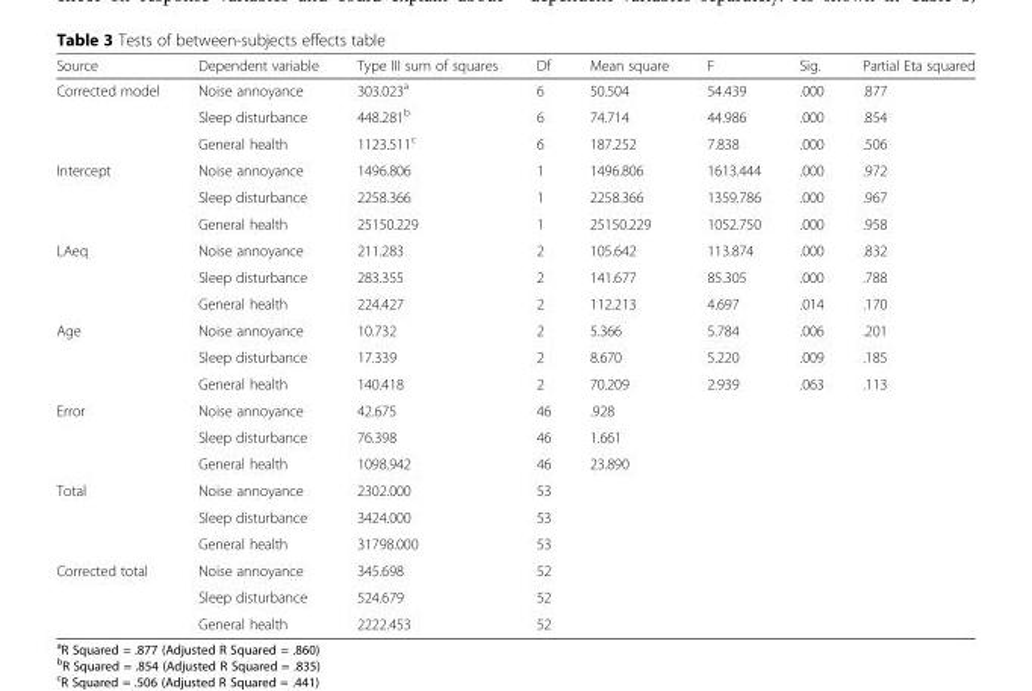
<table><thead><tr><td>Source</td><td>Dependent variable</td><td>Type III sum of squares</td><td>Df</td><td>Mean square</td><td>F</td><td>Sig.</td><td>Partial Eta squared</td></tr></thead><tbody><tr><td rowspan="3">Corrected model</td><td>Noise annoyance</td><td>303.023<sup>a</sup></td><td>6</td><td>50.504</td><td>54.439</td><td>.000</td><td>.877</td></tr><tr><td>Sleep disturbance</td><td>448.281<sup>b</sup></td><td>6</td><td>74.714</td><td>44.986</td><td>.000</td><td>.854</td></tr><tr><td>General health</td><td>1123.511<sup>c</sup></td><td>6</td><td>187.252</td><td>7.838</td><td>.000</td><td>.506</td></tr><tr><td rowspan="3">Intercept</td><td>Noise annoyance</td><td>1496.806</td><td>1</td><td>1496.806</td><td>1613.444</td><td>.000</td><td>.972</td></tr><tr><td>Sleep disturbance</td><td>2258.366</td><td>1</td><td>2258.366</td><td>1359.786</td><td>.000</td><td>.967</td></tr><tr><td>General health</td><td>25150.229</td><td>1</td><td>25150.229</td><td>1052.750</td><td>.000</td><td>.958</td></tr><tr><td rowspan="3">LAeq</td><td>Noise annoyance</td><td>211.283</td><td>2</td><td>105.642</td><td>113.874</td><td>.000</td><td>.832</td></tr><tr><td>Sleep disturbance</td><td>283.355</td><td>2</td><td>141.677</td><td>85.305</td><td>.000</td><td>.788</td></tr><tr><td>General health</td><td>224.427</td><td>2</td><td>112.213</td><td>4.697</td><td>.014</td><td>.170</td></tr><tr><td rowspan="3">Age</td><td>Noise annoyance</td><td>10.732</td><td>2</td><td>5.366</td><td>5.784</td><td>.006</td><td>.201</td></tr><tr><td>Sleep disturbance</td><td>17.339</td><td>2</td><td>8.670</td><td>5.220</td><td>.009</td><td>.185</td></tr><tr><td>General health</td><td>140.418</td><td>2</td><td>70.209</td><td>2.939</td><td>.063</td><td>.113</td></tr><tr><td rowspan="3">Error</td><td>Noise annoyance</td><td>42.675</td><td>46</td><td>.928</td><td></td><td></td><td></td></tr><tr><td>Sleep disturbance</td><td>76.398</td><td>46</td><td>1.661</td><td></td><td></td><td></td></tr><tr><td>General health</td><td>1098.942</td><td>46</td><td>23.890</td><td></td><td></td><td></td></tr><tr><td rowspan="3">Total</td><td>Noise annoyance</td><td>2302.000</td><td>53</td><td></td><td></td><td></td><td></td></tr><tr><td>Sleep disturbance</td><td>3424.000</td><td>53</td><td></td><td></td><td></td><td></td></tr><tr><td>General health</td><td>31798.000</td><td>53</td><td></td><td></td><td></td><td></td></tr><tr><td rowspan="3">Corrected total</td><td>Noise annoyance</td><td>345.698</td><td>52</td><td></td><td></td><td></td><td></td></tr><tr><td>Sleep disturbance</td><td>524.679</td><td>52</td><td></td><td></td><td></td><td></td></tr><tr><td>General health</td><td>2222.453</td><td>52</td><td></td><td></td><td></td><td></td></tr></tbody></table>